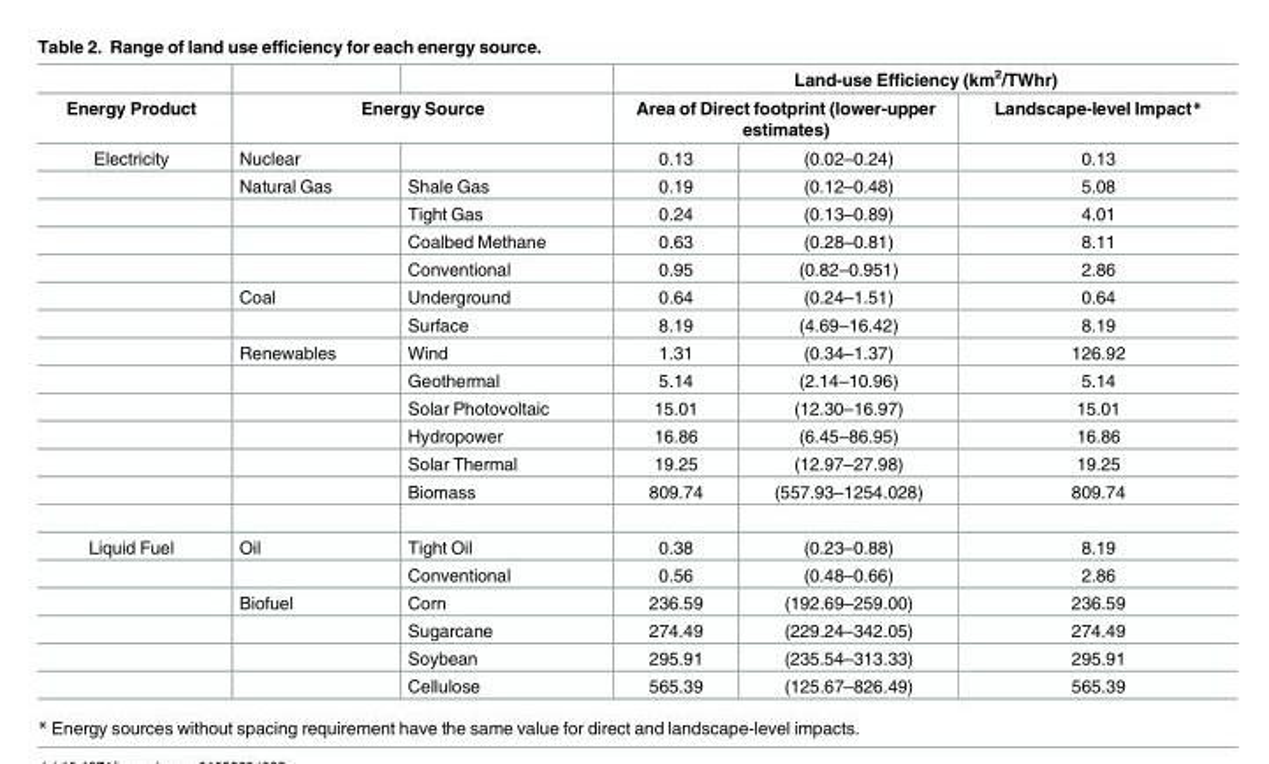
<table><thead><tr><td rowspan="3">Energy Product Electricity</td><td></td><td></td><td colspan="3">Land-use Efficiency (km<sup>2</sup>/TWhr)</td></tr><tr><td colspan="2">Energy Source</td><td colspan="2">Area of Direct footprint (lower-upper estimates)</td><td rowspan="2">Landscape-level Impact* 0.13</td></tr><tr><td>Nuclear</td><td></td><td>0.13</td><td>(0.02–0.24)</td></tr></thead><tbody><tr><td></td><td>Natural Gas</td><td>Shale Gas</td><td>0.19</td><td>(0.12–0.48)</td><td>5.08</td></tr><tr><td></td><td></td><td>Tight Gas</td><td>0.24</td><td>(0.13–0.89)</td><td>4.01</td></tr><tr><td></td><td></td><td>Coalbed Methane</td><td>0.63</td><td>(0.28–0.81)</td><td>8.11</td></tr><tr><td></td><td></td><td>Conventional</td><td>0.95</td><td>(0.82–0.951)</td><td>2.86</td></tr><tr><td></td><td>Coal</td><td>Underground</td><td>0.64</td><td>(0.24–1.51)</td><td>0.64</td></tr><tr><td></td><td></td><td>Surface</td><td>8.19</td><td>(4.69–16.42)</td><td>8.19</td></tr><tr><td></td><td>Renewables</td><td>Wind</td><td>1.31</td><td>(0.34–1.37)</td><td>126.92</td></tr><tr><td></td><td></td><td>Geothermal</td><td>5.14</td><td>(2.14–10.96)</td><td>5.14</td></tr><tr><td></td><td></td><td>Solar Photovoltaic</td><td>15.01</td><td>(12.30–16.97)</td><td>15.01</td></tr><tr><td></td><td></td><td>Hydropower</td><td>16.86</td><td>(6.45–86.95)</td><td>16.86</td></tr><tr><td></td><td></td><td>Solar Thermal</td><td>19.25</td><td>(12.97–27.98)</td><td>19.25</td></tr><tr><td></td><td></td><td>Biomass</td><td>809.74</td><td>(557.93–1254.028)</td><td>809.74</td></tr><tr><td rowspan="6">Liquid Fuel</td><td>Oil</td><td>Tight Oil</td><td>0.38</td><td>(0.23–0.88)</td><td>8.19</td></tr><tr><td></td><td>Conventional</td><td>0.56</td><td>(0.48–0.66)</td><td>2.86</td></tr><tr><td>Biofuel</td><td>Corn</td><td>236.59</td><td>(192.69–259.00)</td><td>236.59</td></tr><tr><td></td><td>Sugarcane</td><td>274.49</td><td>(229.24–342.05)</td><td>274.49</td></tr><tr><td></td><td>Soybean</td><td>295.91</td><td>(235.54–313.33)</td><td>295.91</td></tr><tr><td></td><td>Cellulose</td><td>565.39</td><td>(125.67–826.49)</td><td>565.39</td></tr></tbody></table>